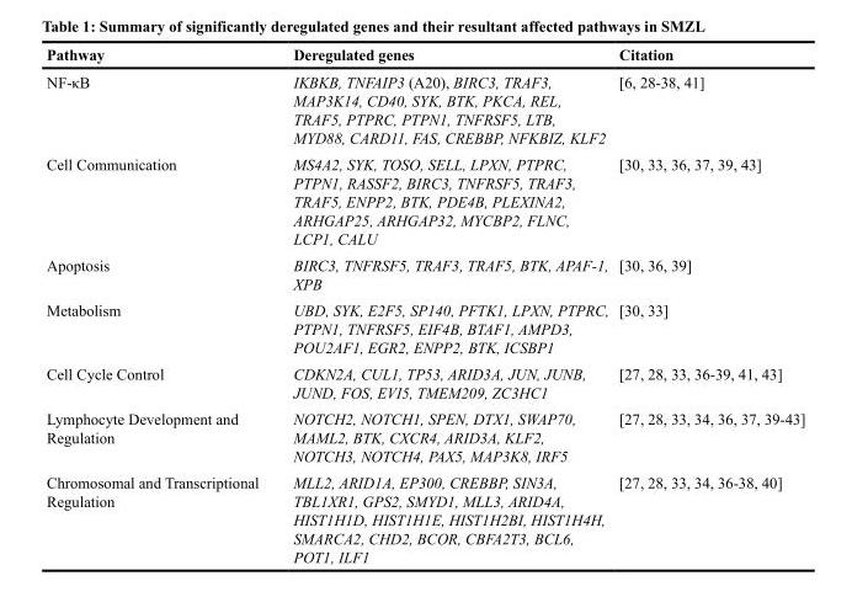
<table><thead><tr><td>Pathway</td><td>Deregulated genes</td><td>Citation</td></tr></thead><tbody><tr><td>NF-κB</td><td>IKBKB, TNFAIP3 (A20), BIRC3, TRAF3, MAP3K14, CD40, SYK, BTK, PKCA, REL, TRAF5, PTPRC, PTPN1, TNFRSF5, LTB, MYD88, CARD11, FAS, CREBBP, NFKBIZ, KLF2</td><td>[6, 28-38, 41]</td></tr><tr><td>Cell Communication</td><td>MS4A2, SYK, TOSO, SELL, LPXN, PTPRC, PTPN1, RASSF2, BIRC3, TNFRSF5, TRAF3, TRAF5, ENPP2, BTK, PDE4B, PLEXINA2, ARHGAP25, ARHGAP32, MYCBP2, FLNC, LCP1, CALU</td><td>[30, 33, 36, 37, 39, 43]</td></tr><tr><td>Apoptosis</td><td>BIRC3, TNFRSF5, TRAF3, TRAF5, BTK, APAF-1, XPB</td><td>[30, 36, 39]</td></tr><tr><td>Metabolism</td><td>UBD, SYK, E2F5, SP140, PFTK1, LPXN, PTPRC, PTPN1, TNFRSF5, EIF4B, BTAF1, AMPD3, POU2AF1, EGR2, ENPP2, BTK, ICSBP1</td><td>[30, 33]</td></tr><tr><td>Cell Cycle Control</td><td>CDKN2A, CUL1, TP53, ARID3A, JUN, JUNB, JUND, FOS, EVI5, TMEM209, ZC3HC1</td><td>[27, 28, 33, 36-39, 41, 43]</td></tr><tr><td>Lymphocyte Development and Regulation</td><td>NOTCH2, NOTCH1, SPEN, DTX1, SWAP70, MAML2, BTK, CXCR4, ARID3A, KLF2, NOTCH3, NOTCH4, PAX5, MAP3K8, IRF5</td><td>[27, 28, 33, 34, 36, 37, 39-43]</td></tr><tr><td>Chromosomal and Transcriptional Regulation</td><td>MLL2, ARID1A, EP300, CREBBP, SIN3A, TBL1XR1, GPS2, SMYD1, MLL3, ARID4A, HIST1H1D, HIST1H1E, HIST1H2BI, HIST1H4H, SMARCA2, CHD2, BCOR, CBFA2T3, BCL6, POT1, ILF1</td><td>[27, 28, 33, 34, 36-38, 40]</td></tr></tbody></table>